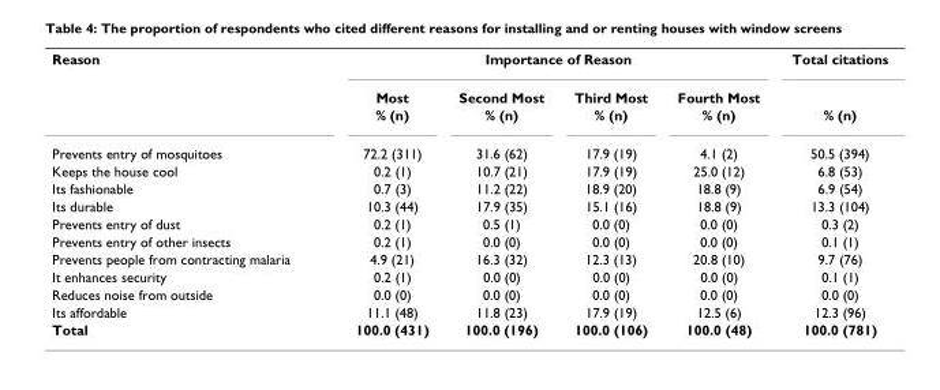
<table><tbody><tr><td rowspan="3">Reason</td><td colspan="4">Importance of Reason</td><td>Total citations</td></tr><tr><td>Most</td><td>Second Most</td><td>Third Most</td><td>Fourth Most</td><td></td></tr><tr><td>% (n)</td><td>% (n)</td><td>% (n)</td><td>% (n)</td><td>% (n)</td></tr><tr><td>Prevents entry of mosquitoes</td><td>72.2 (311)</td><td>31.6 (62)</td><td>17.9 (19)</td><td>4.1 (2)</td><td>50.5 (394)</td></tr><tr><td>Keeps the house cool</td><td>0.2 (1)</td><td>10.7 (21)</td><td>17.9 (19)</td><td>25.0 (12)</td><td>6.8 (53)</td></tr><tr><td>Its fashionable</td><td>0.7 (3)</td><td>11.2 (22)</td><td>18.9 (20)</td><td>18.8 (9)</td><td>6.9 (54)</td></tr><tr><td>Its durable</td><td>10.3 (44)</td><td>17.9 (35)</td><td>15.1 (16)</td><td>18.8 (9)</td><td>13.3 (104)</td></tr><tr><td>Prevents entry of dust</td><td>0.2 (1)</td><td>0.5 (1)</td><td>0.0 (0)</td><td>0.0 (0)</td><td>0.3 (2)</td></tr><tr><td>Prevents entry of other insects</td><td>0.2 (1)</td><td>0.0 (0)</td><td>0.0 (0)</td><td>0.0 (0)</td><td>0.1 (1)</td></tr><tr><td>Prevents people from contracting malaria</td><td>4.9 (21)</td><td>16.3 (32)</td><td>12.3 (13)</td><td>20.8 (10)</td><td>9.7 (76)</td></tr><tr><td>It enhances security</td><td>0.2 (1)</td><td>0.0 (0)</td><td>0.0 (0)</td><td>0.0 (0)</td><td>0.1 (1)</td></tr><tr><td>Reduces noise from outside</td><td>0.0 (0)</td><td>0.0 (0)</td><td>0.0 (0)</td><td>0.0 (0)</td><td>0.0 (0)</td></tr><tr><td>Its affordable</td><td>11.1 (48)</td><td>11.8 (23)</td><td>17.9 (19)</td><td>12.5 (6)</td><td>12.3 (96)</td></tr><tr><td>Total</td><td>100.0 (431)</td><td>100.0 (196)</td><td>100.0 (106)</td><td>100.0 (48)</td><td>100.0 (781)</td></tr></tbody></table>